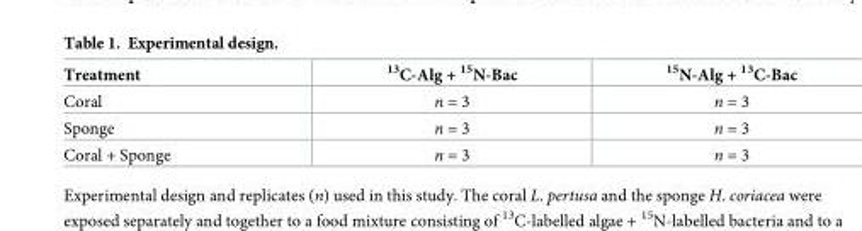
<table><thead><tr><td>Treatment</td><td><sup>13</sup>C-Alg + <sup>15</sup>N-Bac</td><td><sup>15</sup>N-Alg + <sup>13</sup>C-Bac</td></tr></thead><tbody><tr><td>Coral</td><td>n = 3</td><td>n = 3</td></tr><tr><td>Sponge</td><td>n = 3</td><td>n = 3</td></tr><tr><td>Coral + Sponge</td><td>n = 3</td><td>n = 3</td></tr></tbody></table>